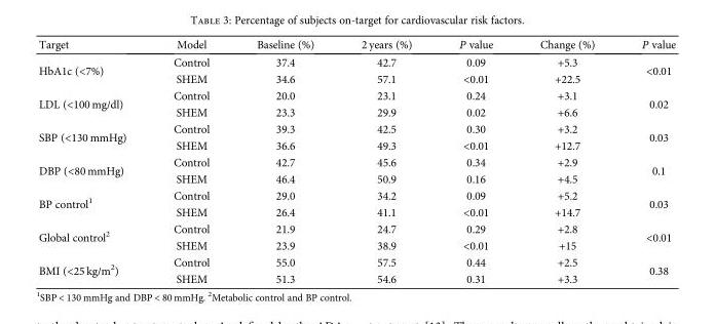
<table><thead><tr><td>Target</td><td>Model</td><td>Baseline (%)</td><td>2 years (%)</td><td>P value</td><td>Change (%)</td><td>P value</td></tr></thead><tbody><tr><td rowspan="2">HbA1c (&lt;7%)</td><td>Control</td><td>37.4</td><td>42.7</td><td>0.09</td><td>+5.3</td><td rowspan="2">&lt;0.01</td></tr><tr><td>SHEM</td><td>34.6</td><td>57.1</td><td>&lt;0.01</td><td>+22.5</td></tr><tr><td rowspan="2">LDL (&lt;100 mg/dl)</td><td>Control</td><td>20.0</td><td>23.1</td><td>0.24</td><td>+3.1</td><td rowspan="2">0.02</td></tr><tr><td>SHEM</td><td>23.3</td><td>29.9</td><td>0.02</td><td>+6.6</td></tr><tr><td rowspan="2">SBP (&lt;130 mmHg)</td><td>Control</td><td>39.3</td><td>42.5</td><td>0.30</td><td>+3.2</td><td rowspan="2">0.03</td></tr><tr><td>SHEM</td><td>36.6</td><td>49.3</td><td>&lt;0.01</td><td>+12.7</td></tr><tr><td rowspan="2">DBP (&lt;80 mmHg)</td><td>Control</td><td>42.7</td><td>45.6</td><td>0.34</td><td>+2.9</td><td rowspan="2">0.1</td></tr><tr><td>SHEM</td><td>46.4</td><td>50.9</td><td>0.16</td><td>+4.5</td></tr><tr><td rowspan="2">BP control<sup>1</sup></td><td>Control</td><td>29.0</td><td>34.2</td><td>0.09</td><td>+5.2</td><td rowspan="2">0.03</td></tr><tr><td>SHEM</td><td>26.4</td><td>41.1</td><td>&lt;0.01</td><td>+14.7</td></tr><tr><td rowspan="2">Global control<sup>2</sup></td><td>Control</td><td>21.9</td><td>24.7</td><td>0.29</td><td>+2.8</td><td rowspan="2">&lt;0.01</td></tr><tr><td>SHEM</td><td>23.9</td><td>38.9</td><td>&lt;0.01</td><td>+15</td></tr><tr><td rowspan="2">BMI (&lt;25 kg/m<sup>2</sup>)</td><td>Control</td><td>55.0</td><td>57.5</td><td>0.44</td><td>+2.5</td><td rowspan="2">0.38</td></tr><tr><td>SHEM</td><td>51.3</td><td>54.6</td><td>0.31</td><td>+3.3</td></tr></tbody></table>